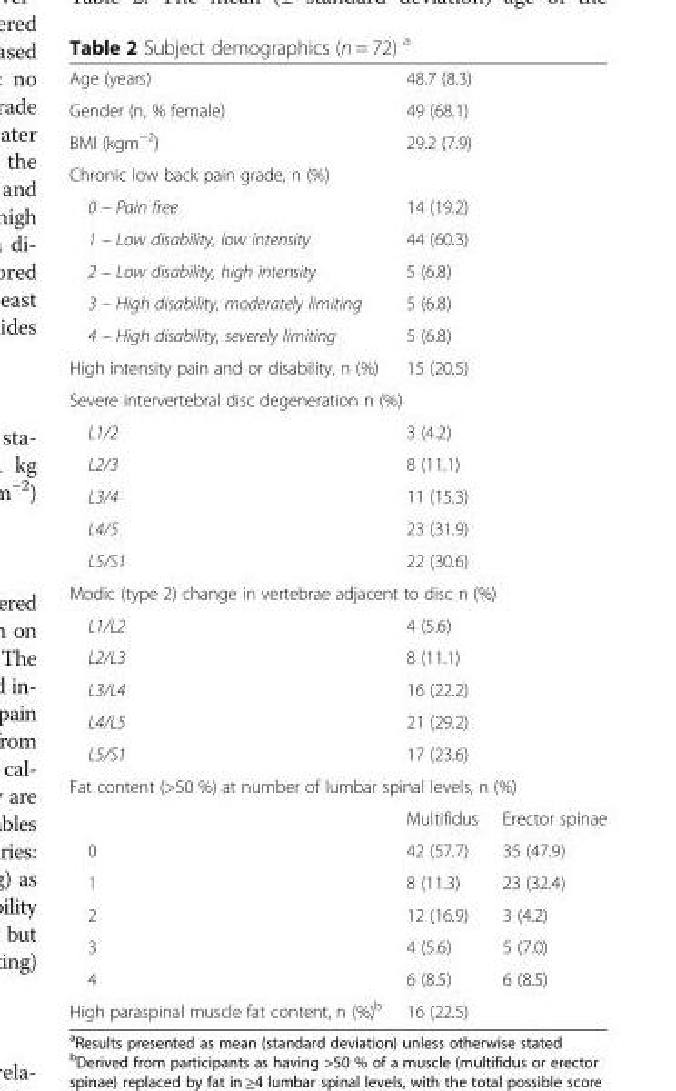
<table><tbody><tr><td>Age (years)</td><td colspan="2">48.7 (8.3)</td></tr><tr><td>Gender (n, % female)</td><td colspan="2">49 (68.1)</td></tr><tr><td>BMI (kgm<sup>−2</sup>)</td><td colspan="2">29.2 (7.9)</td></tr><tr><td colspan="3">Chronic low back pain grade, n (%)</td></tr><tr><td>0 – Pain free</td><td colspan="2">14 (19.2)</td></tr><tr><td>1 – Low disability, low intensity</td><td colspan="2">44 (60.3)</td></tr><tr><td>2 – Low disability, high intensity</td><td colspan="2">5 (6.8)</td></tr><tr><td>3 – High disability, moderately limiting</td><td colspan="2">5 (6.8)</td></tr><tr><td>4 – High disability, severely limiting</td><td colspan="2">5 (6.8)</td></tr><tr><td>High intensity pain and or disability, n (%)</td><td colspan="2">15 (20.5)</td></tr><tr><td colspan="3">Severe intervertebral disc degeneration n (%)</td></tr><tr><td>L1/2</td><td colspan="2">3 (4.2)</td></tr><tr><td>L2/3</td><td colspan="2">8 (11.1)</td></tr><tr><td>L3/4</td><td colspan="2">11 (15.3)</td></tr><tr><td>L4/5</td><td colspan="2">23 (31.9)</td></tr><tr><td>L5/S1</td><td colspan="2">22 (30.6)</td></tr><tr><td colspan="3">Modic (type 2) change in vertebrae adjacent to disc n (%)</td></tr><tr><td>L1/L2</td><td colspan="2">4 (5.6)</td></tr><tr><td>L2/L3</td><td colspan="2">8 (11.1)</td></tr><tr><td>L3/L4</td><td colspan="2">16 (22.2)</td></tr><tr><td>L4/L5</td><td colspan="2">21 (29.2)</td></tr><tr><td>L5/S1</td><td colspan="2">17 (23.6)</td></tr><tr><td colspan="3">Fat content (&gt;50 %) at number of lumbar spinal levels, n (%)</td></tr><tr><td></td><td>Multifidus</td><td>Erector spinae</td></tr><tr><td>0</td><td>42 (57.7)</td><td>35 (47.9)</td></tr><tr><td>1</td><td>8 (11.3)</td><td>23 (32.4)</td></tr><tr><td>2</td><td>12 (16.9)</td><td>3 (4.2)</td></tr><tr><td>3</td><td>4 (5.6)</td><td>5 (7.0)</td></tr><tr><td>4</td><td>6 (8.5)</td><td>6 (8.5)</td></tr><tr><td>High paraspinal muscle fat content, n (%)<sup>b</sup></td><td colspan="2">16 (22.5)</td></tr></tbody></table>